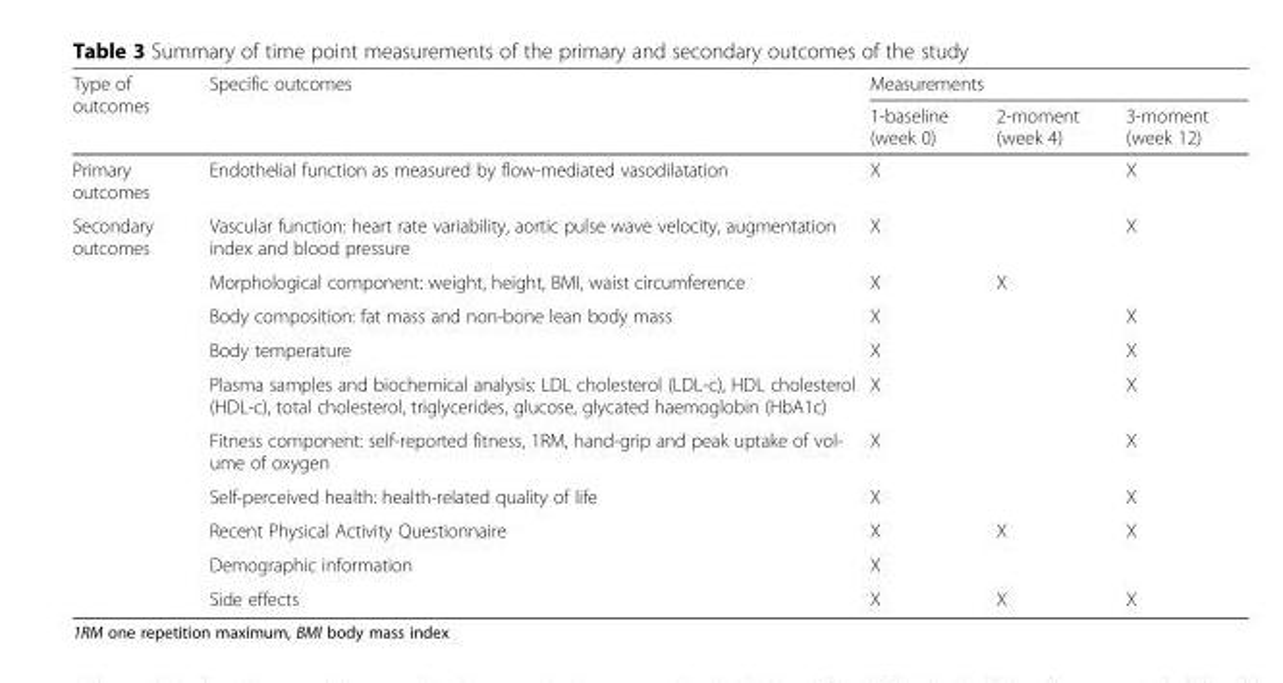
<table><thead><tr><td rowspan="2">Type of outcomes</td><td rowspan="2">Specific outcomes</td><td colspan="3">Measurements</td></tr><tr><td>1-baseline (week 0)</td><td>2-moment (week 4)</td><td>3-moment (week 12)</td></tr></thead><tbody><tr><td>Primary outcomes</td><td>Endothelial function as measured by flow-mediated vasodilatation</td><td>X</td><td></td><td>X</td></tr><tr><td rowspan="10">Secondary outcomes</td><td>Vascular function: heart rate variability, aortic pulse wave velocity, augmentation index and blood pressure</td><td>X</td><td></td><td>X</td></tr><tr><td>Morphological component: weight, height, BMI, waist circumference</td><td>X</td><td>X</td><td></td></tr><tr><td>Body composition: fat mass and non-bone lean body mass</td><td>X</td><td></td><td>X</td></tr><tr><td>Body temperature</td><td>X</td><td></td><td>X</td></tr><tr><td>Plasma samples and biochemical analysis: LDL cholesterol (LDL-c), HDL cholesterol (HDL-c), total cholesterol, triglycerides, glucose, glycated haemoglobin (HbA1c)</td><td>X</td><td></td><td>X</td></tr><tr><td>Fitness component: self-reported fitness, 1RM, hand-grip and peak uptake of vol- ume of oxygen</td><td>X</td><td></td><td>X</td></tr><tr><td>Self-perceived health: health-related quality of life</td><td>X</td><td></td><td>X</td></tr><tr><td>Recent Physical Activity Questionnaire</td><td>X</td><td>X</td><td>X</td></tr><tr><td>Demographic information</td><td>X</td><td></td><td></td></tr><tr><td>Side effects</td><td>X</td><td>X</td><td>X</td></tr></tbody></table>